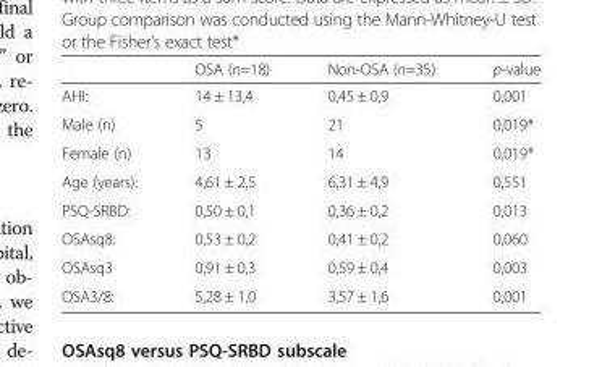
<table><thead><tr><td></td><td>OSA (n=18)</td><td>Non-OSA (n=35)</td><td>p-value</td></tr></thead><tbody><tr><td>AHI:</td><td>14 ± 13,4</td><td>0,45 ± 0,9</td><td>0,001</td></tr><tr><td>Male (n)</td><td>5</td><td>21</td><td>0,019*</td></tr><tr><td>Female (n)</td><td>13</td><td>14</td><td>0,019*</td></tr><tr><td>Age (years):</td><td>4,61 ± 2,5</td><td>6,31 ± 4,9</td><td>0,551</td></tr><tr><td>PSQ-SRBD:</td><td>0,50 ± 0,1</td><td>0,36 ± 0,2</td><td>0,013</td></tr><tr><td>OSAsq8:</td><td>0,53 ± 0,2</td><td>0,41 ± 0,2</td><td>0,060</td></tr><tr><td>OSAsq3</td><td>0,91 ± 0,3</td><td>0,59 ± 0,4</td><td>0,003</td></tr><tr><td>OSA3/8:</td><td>5,28 ± 1,0</td><td>3,57 ± 1,6</td><td>0,001</td></tr></tbody></table>